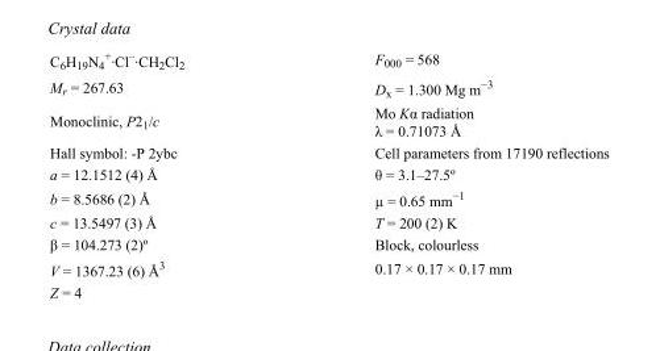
<table><tbody><tr><td>C<sub>6</sub>H<sub>19</sub>N<sub>4</sub> <sup>+</sup>·Cl<sup>–</sup>·CH<sub>2</sub>Cl<sub>2</sub></td><td>F<sub>000</sub> = 568</td></tr><tr><td>M<sub>r</sub> = 267.63</td><td>D<sub>x</sub> = 1.300 Mg m<sup>−3</sup></td></tr><tr><td>Monoclinic, P2<sub>1</sub>/c</td><td>Mo Kα radiation λ = 0.71073 Å</td></tr><tr><td>Hall symbol: -P 2ybc</td><td>Cell parameters from 17190 reflections</td></tr><tr><td>a = 12.1512 (4) Å</td><td>θ = 3.1–27.5º</td></tr><tr><td>b = 8.5686 (2) Å</td><td>µ = 0.65 mm<sup>−1</sup></td></tr><tr><td>c = 13.5497 (3) Å</td><td>T = 200 (2) K</td></tr><tr><td>β = 104.273 (2)º</td><td>Block, colourless</td></tr><tr><td>V = 1367.23 (6) Å<sup>3</sup></td><td>0.17 × 0.17 × 0.17 mm</td></tr><tr><td>Z = 4</td><td></td></tr></tbody></table>